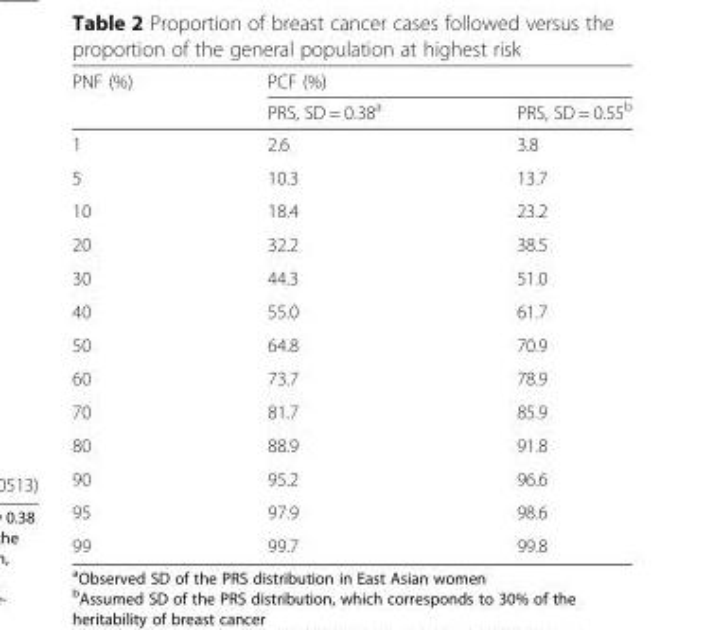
<table><thead><tr><td rowspan="2">PNF (%)</td><td colspan="2">PCF (%)</td></tr><tr><td>PRS, SD = 0.38<sup>a</sup></td><td>PRS, SD = 0.55<sup>b</sup></td></tr></thead><tbody><tr><td>1</td><td>2.6</td><td>3.8</td></tr><tr><td>5</td><td>10.3</td><td>13.7</td></tr><tr><td>10</td><td>18.4</td><td>23.2</td></tr><tr><td>20</td><td>32.2</td><td>38.5</td></tr><tr><td>30</td><td>44.3</td><td>51.0</td></tr><tr><td>40</td><td>55.0</td><td>61.7</td></tr><tr><td>50</td><td>64.8</td><td>70.9</td></tr><tr><td>60</td><td>73.7</td><td>78.9</td></tr><tr><td>70</td><td>81.7</td><td>85.9</td></tr><tr><td>80</td><td>88.9</td><td>91.8</td></tr><tr><td>90</td><td>95.2</td><td>96.6</td></tr><tr><td>95</td><td>97.9</td><td>98.6</td></tr><tr><td>99</td><td>99.7</td><td>99.8</td></tr></tbody></table>